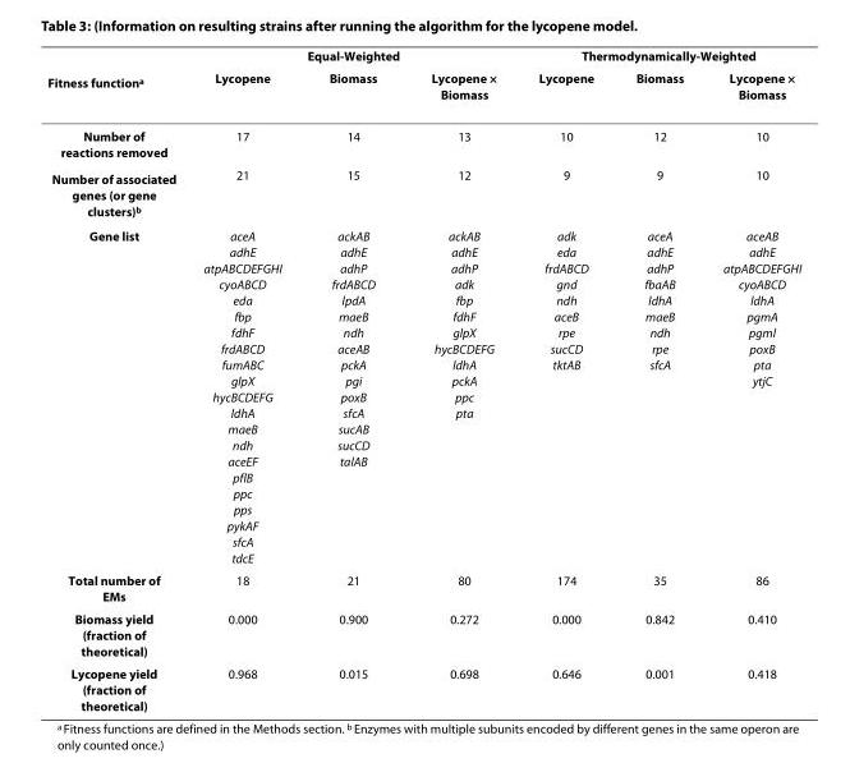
<table><thead><tr><td rowspan="2">Fitness function<sup>a</sup></td><td colspan="3">Equal-Weighted</td><td colspan="3">Thermodynamically-Weighted</td></tr><tr><td>Lycopene</td><td>Biomass</td><td>Lycopene × Biomass</td><td>Lycopene</td><td>Biomass</td><td>Lycopene × Biomass</td></tr></thead><tbody><tr><td>Number of reactions removed</td><td>17</td><td>14</td><td>13</td><td>10</td><td>12</td><td>10</td></tr><tr><td>Number of associated genes (or gene clusters)<sup>b</sup></td><td>21</td><td>15</td><td>12</td><td>9</td><td>9</td><td>10</td></tr><tr><td>Gene list</td><td>aceA adhE atpABCDEFGHI cyoABCD eda fbp fdhF frdABCD fumABC glpX hycBCDEFG ldhA maeB ndh aceEF pflB ppc pps pykAF sfcA tdcE</td><td>ackAB adhE adhP frdABCD lpdA maeB ndh aceAB pckA pgi poxB sfcA sucAB sucCD talAB</td><td>ackAB adhE adhP adk fbp fdhF glpX hycBCDEFG ldhA pckA ppc pta</td><td>adk eda frdABCD gnd ndh aceB rpe sucCD tktAB</td><td>aceA adhE adhP fbaAB ldhA maeB ndh rpe sfcA</td><td>aceAB adhE atpABCDEFGHI cyoABCD ldhA pgmA pgml poxB pta ytjC</td></tr><tr><td>Total number of EMs</td><td>18</td><td>21</td><td>80</td><td>174</td><td>35</td><td>86</td></tr><tr><td>Biomass yield (fraction of theoretical)</td><td>0.000</td><td>0.900</td><td>0.272</td><td>0.000</td><td>0.842</td><td>0.410</td></tr><tr><td>Lycopene yield (fraction of theoretical)</td><td>0.968</td><td>0.015</td><td>0.698</td><td>0.646</td><td>0.001</td><td>0.418</td></tr></tbody></table>